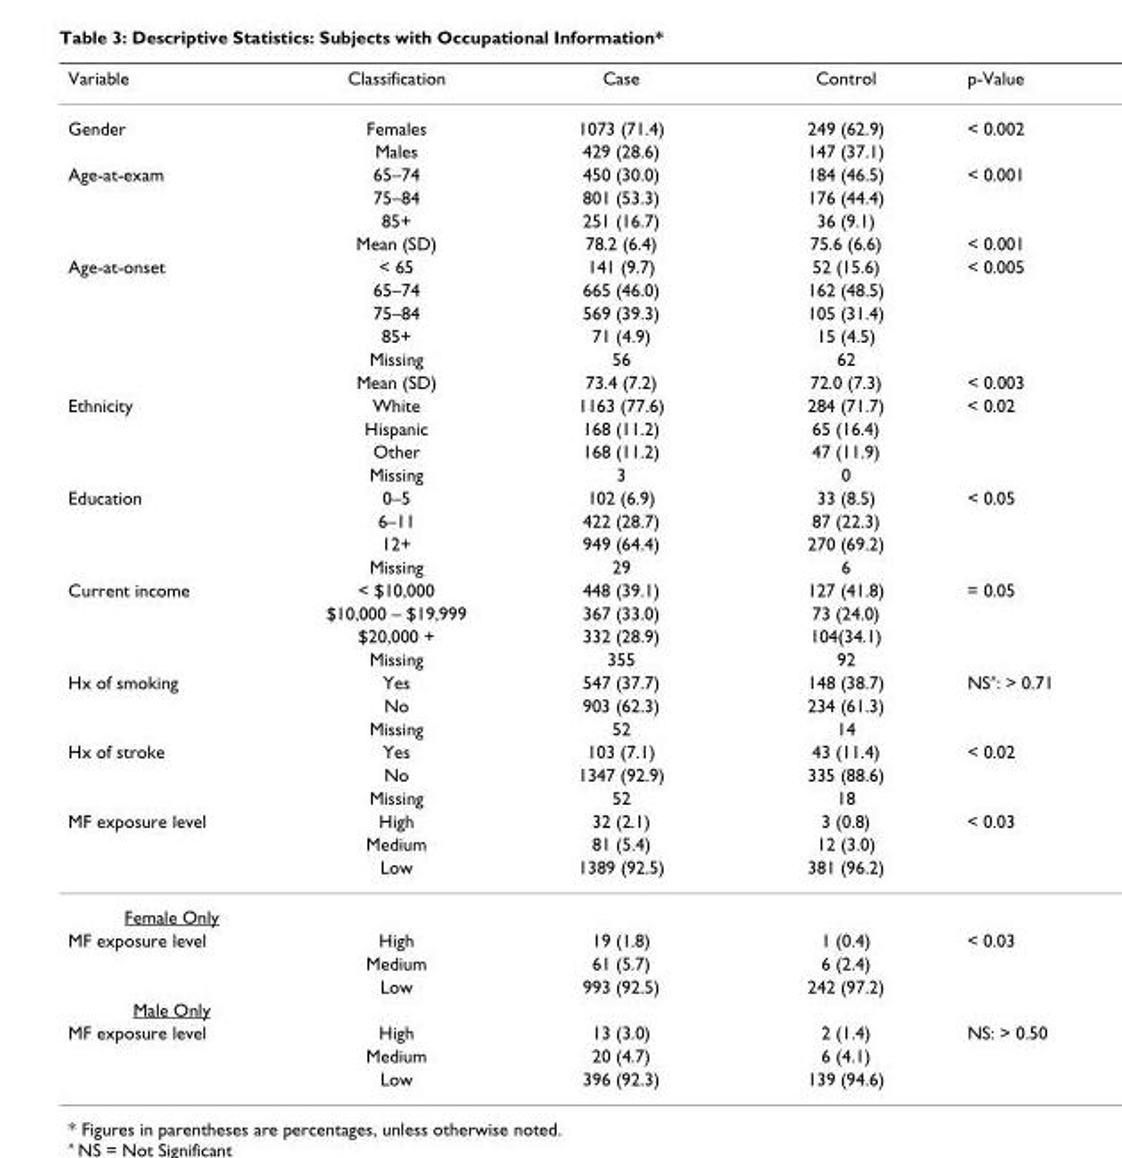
<table><thead><tr><td>Variable</td><td>Classification</td><td>Case</td><td>Control</td><td>p-Value</td></tr></thead><tbody><tr><td rowspan="2">Gender</td><td>Females</td><td>1073 (71.4)</td><td>249 (62.9)</td><td>&lt; 0.002</td></tr><tr><td>Males</td><td>429 (28.6)</td><td>147 (37.1)</td><td></td></tr><tr><td rowspan="4">Age-at-exam</td><td>65–74</td><td>450 (30.0)</td><td>184 (46.5)</td><td>&lt; 0.001</td></tr><tr><td>75–84</td><td>801 (53.3)</td><td>176 (44.4)</td><td></td></tr><tr><td>85+</td><td>251 (16.7)</td><td>36 (9.1)</td><td></td></tr><tr><td>Mean (SD)</td><td>78.2 (6.4)</td><td>75.6 (6.6)</td><td>&lt; 0.001</td></tr><tr><td rowspan="6">Age-at-onset</td><td>&lt; 65</td><td>141 (9.7)</td><td>52 (15.6)</td><td>&lt; 0.005</td></tr><tr><td>65–74</td><td>665 (46.0)</td><td>162 (48.5)</td><td></td></tr><tr><td>75–84</td><td>569 (39.3)</td><td>105 (31.4)</td><td></td></tr><tr><td>85+</td><td>71 (4.9)</td><td>15 (4.5)</td><td></td></tr><tr><td>Missing</td><td>56</td><td>62</td><td></td></tr><tr><td>Mean (SD)</td><td>73.4 (7.2)</td><td>72.0 (7.3)</td><td>&lt; 0.003</td></tr><tr><td rowspan="4">Ethnicity</td><td>White</td><td>1163 (77.6)</td><td>284 (71.7)</td><td>&lt; 0.02</td></tr><tr><td>Hispanic</td><td>168 (11.2)</td><td>65 (16.4)</td><td></td></tr><tr><td>Other</td><td>168 (11.2)</td><td>47 (11.9)</td><td></td></tr><tr><td>Missing</td><td>3</td><td>0</td><td></td></tr><tr><td rowspan="4">Education</td><td>0–5</td><td>102 (6.9)</td><td>33 (8.5)</td><td>&lt; 0.05</td></tr><tr><td>6–11</td><td>422 (28.7)</td><td>87 (22.3)</td><td></td></tr><tr><td>12+</td><td>949 (64.4)</td><td>270 (69.2)</td><td></td></tr><tr><td>Missing</td><td>29</td><td>6</td><td></td></tr><tr><td rowspan="4">Current income</td><td>&lt; $10,000</td><td>448 (39.1)</td><td>127 (41.8)</td><td>= 0.05</td></tr><tr><td>$10,000 – $19,999</td><td>367 (33.0)</td><td>73 (24.0)</td><td></td></tr><tr><td>$20,000 +</td><td>332 (28.9)</td><td>104(34.1)</td><td></td></tr><tr><td>Missing</td><td>355</td><td>92</td><td></td></tr><tr><td rowspan="3">Hx of smoking</td><td>Yes</td><td>547 (37.7)</td><td>148 (38.7)</td><td>NS<sup>^</sup>: &gt; 0.71</td></tr><tr><td>No</td><td>903 (62.3)</td><td>234 (61.3)</td><td></td></tr><tr><td>Missing</td><td>52</td><td>14</td><td></td></tr><tr><td rowspan="3">Hx of stroke</td><td>Yes</td><td>103 (7.1)</td><td>43 (11.4)</td><td>&lt; 0.02</td></tr><tr><td>No</td><td>1347 (92.9)</td><td>335 (88.6)</td><td></td></tr><tr><td>Missing</td><td>52</td><td>18</td><td></td></tr><tr><td rowspan="3">MF exposure level</td><td>High</td><td>32 (2.1)</td><td>3 (0.8)</td><td>&lt; 0.03</td></tr><tr><td>Medium</td><td>81 (5.4)</td><td>12 (3.0)</td><td></td></tr><tr><td>Low</td><td>1389 (92.5)</td><td>381 (96.2)</td><td></td></tr><tr><td colspan="5">Female Only</td></tr><tr><td rowspan="3">MF exposure level</td><td>High</td><td>19 (1.8)</td><td>1 (0.4)</td><td>&lt; 0.03</td></tr><tr><td>Medium</td><td>61 (5.7)</td><td>6 (2.4)</td><td></td></tr><tr><td>Low</td><td>993 (92.5)</td><td>242 (97.2)</td><td></td></tr><tr><td colspan="5">Male Only</td></tr><tr><td rowspan="3">MF exposure level</td><td>High</td><td>13 (3.0)</td><td>2 (1.4)</td><td>NS: &gt; 0.50</td></tr><tr><td>Medium</td><td>20 (4.7)</td><td>6 (4.1)</td><td></td></tr><tr><td>Low</td><td>396 (92.3)</td><td>139 (94.6)</td><td></td></tr></tbody></table>